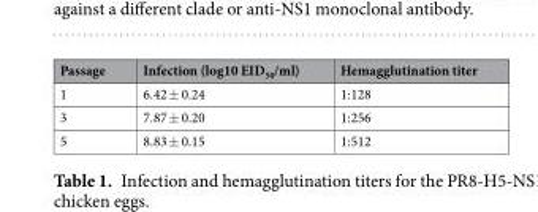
<table><thead><tr><td>Passage</td><td>Infection (log10 EID<sub>50</sub>/ml)</td><td>Hemagglutination titer</td></tr></thead><tbody><tr><td>1</td><td>6.42 ± 0.24</td><td>1:128</td></tr><tr><td>3</td><td>7.87 ± 0.20</td><td>1:256</td></tr><tr><td>5</td><td>8.83 ± 0.15</td><td>1:512</td></tr></tbody></table>